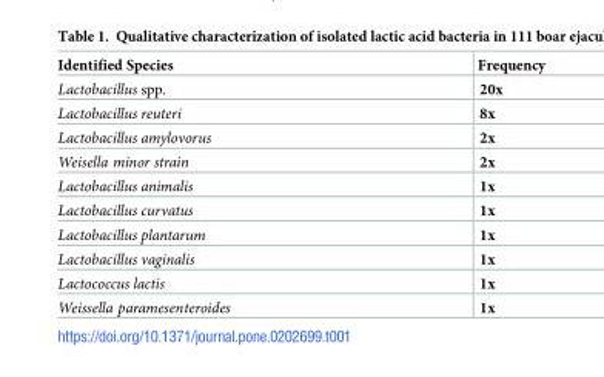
<table><thead><tr><td>Identified Species</td><td>Frequency</td></tr></thead><tbody><tr><td>Lactobacillus spp.</td><td>20x</td></tr><tr><td>Lactobacillus reuteri</td><td>8x</td></tr><tr><td>Lactobacillus amylovorus</td><td>2x</td></tr><tr><td>Weisella minor strain</td><td>2x</td></tr><tr><td>Lactobacillus animalis</td><td>1x</td></tr><tr><td>Lactobacillus curvatus</td><td>1x</td></tr><tr><td>Lactobacillus plantarum</td><td>1x</td></tr><tr><td>Lactobacillus vaginalis</td><td>1x</td></tr><tr><td>Lactococcus lactis</td><td>1x</td></tr><tr><td>Weissella paramesenteroides</td><td>1x</td></tr></tbody></table>